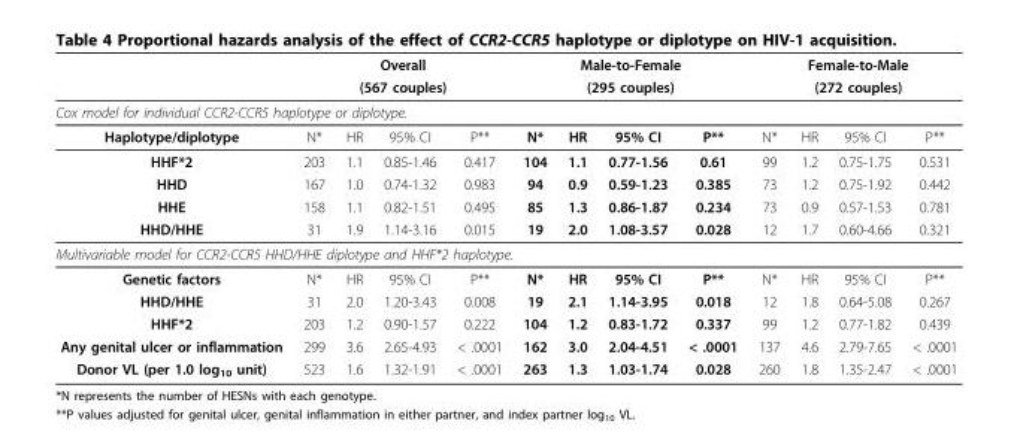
<table><thead><tr><td rowspan="2"></td><td rowspan="2" colspan="4">Overall (567 couples)</td><td rowspan="2" colspan="4">Male-to-Female (295 couples)</td><td rowspan="2" colspan="4">Female-to-Male (272 couples)</td></tr><tr></tr><tr><td colspan="13">Cox model for individual CCR2-CCR5 haplotype or diplotype.</td></tr><tr><td>Haplotype/diplotype</td><td>N*</td><td>HR</td><td>95% CI</td><td>P**</td><td>N*</td><td>HR</td><td>95% CI</td><td>P**</td><td>N*</td><td>HR</td><td>95% CI</td><td>P**</td></tr></thead><tbody><tr><td>HHF*2</td><td>203</td><td>1.1</td><td>0.85-1.46</td><td>0.417</td><td>104</td><td>1.1</td><td>0.77-1.56</td><td>0.61</td><td>99</td><td>1.2</td><td>0.75-1.75</td><td>0.531</td></tr><tr><td>HHD</td><td>167</td><td>1.0</td><td>0.74-1.32</td><td>0.983</td><td>94</td><td>0.9</td><td>0.59-1.23</td><td>0.385</td><td>73</td><td>1.2</td><td>0.75-1.92</td><td>0.442</td></tr><tr><td>HHE</td><td>158</td><td>1.1</td><td>0.82-1.51</td><td>0.495</td><td>85</td><td>1.3</td><td>0.86-1.87</td><td>0.234</td><td>73</td><td>0.9</td><td>0.57-1.53</td><td>0.781</td></tr><tr><td>HHD/HHE</td><td>31</td><td>1.9</td><td>1.14-3.16</td><td>0.015</td><td>19</td><td>2.0</td><td>1.08-3.57</td><td>0.028</td><td>12</td><td>1.7</td><td>0.60-4.66</td><td>0.321</td></tr><tr><td colspan="13">Multivariable model for CCR2-CCR5 HHD/HHE diplotype and HHF*2 haplotype.</td></tr><tr><td>Genetic factors</td><td>N*</td><td>HR</td><td>95% CI</td><td>P**</td><td>N*</td><td>HR</td><td>95% CI</td><td>P**</td><td>N*</td><td>HR</td><td>95% CI</td><td>P**</td></tr><tr><td>HHD/HHE</td><td>31</td><td>2.0</td><td>1.20-3.43</td><td>0.008</td><td>19</td><td>2.1</td><td>1.14-3.95</td><td>0.018</td><td>12</td><td>1.8</td><td>0.64-5.08</td><td>0.267</td></tr><tr><td>HHF*2</td><td>203</td><td>1.2</td><td>0.90-1.57</td><td>0.222</td><td>104</td><td>1.2</td><td>0.83-1.72</td><td>0.337</td><td>99</td><td>1.2</td><td>0.77-1.82</td><td>0.439</td></tr><tr><td>Any genital ulcer or inflammation</td><td>299</td><td>3.6</td><td>2.65-4.93</td><td>&lt; .0001</td><td>162</td><td>3.0</td><td>2.04-4.51</td><td>&lt; .0001</td><td>137</td><td>4.6</td><td>2.79-7.65</td><td>&lt; .0001</td></tr><tr><td>Donor VL (per 1.0 log<sub>10</sub> unit)</td><td>523</td><td>1.6</td><td>1.32-1.91</td><td>&lt; .0001</td><td>263</td><td>1.3</td><td>1.03-1.74</td><td>0.028</td><td>260</td><td>1.8</td><td>1.35-2.47</td><td>&lt; .0001</td></tr></tbody></table>